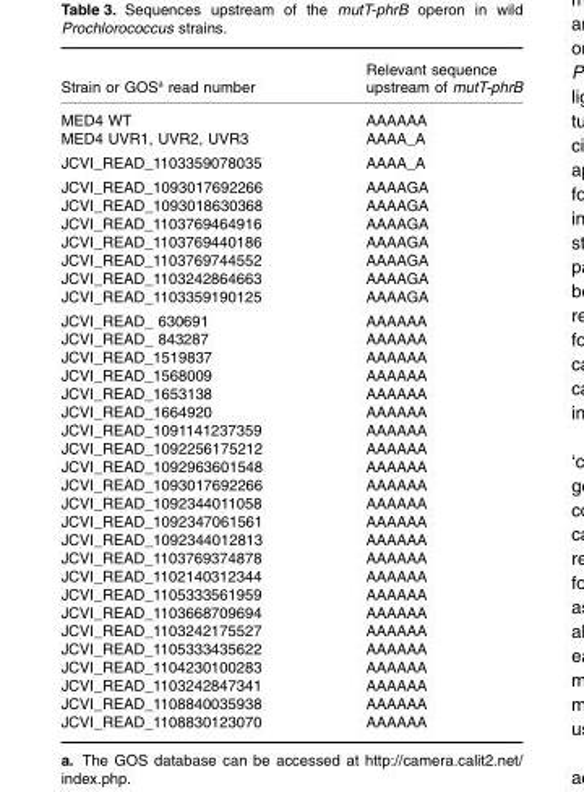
<table><thead><tr><td>Strain or GOSa read number</td><td>Relevant sequence upstream of mutT-phrB</td></tr></thead><tbody><tr><td>MED4 WT</td><td>AAAAAA</td></tr><tr><td>MED4 UVR1, UVR2, UVR3</td><td>AAAA_A</td></tr><tr><td>JCVI_READ_1103359078035</td><td>AAAA_A</td></tr><tr><td>JCVI_READ_1093017692266</td><td>AAAAGA</td></tr><tr><td>JCVI_READ_1093018630368</td><td>AAAAGA</td></tr><tr><td>JCVI_READ_1103769464916</td><td>AAAAGA</td></tr><tr><td>JCVI_READ_1103769440186</td><td>AAAAGA</td></tr><tr><td>JCVI_READ_1103769744552</td><td>AAAAGA</td></tr><tr><td>JCVI_READ_1103242864663</td><td>AAAAGA</td></tr><tr><td>JCVI_READ_1103359190125</td><td>AAAAGA</td></tr><tr><td>JCVI_READ_ 630691</td><td>AAAAAA</td></tr><tr><td>JCVI_READ_ 843287</td><td>AAAAAA</td></tr><tr><td>JCVI_READ_1519837</td><td>AAAAAA</td></tr><tr><td>JCVI_READ_1568009</td><td>AAAAAA</td></tr><tr><td>JCVI_READ_1653138</td><td>AAAAAA</td></tr><tr><td>JCVI_READ_1664920</td><td>AAAAAA</td></tr><tr><td>JCVI_READ_1091141237359</td><td>AAAAAA</td></tr><tr><td>JCVI_READ_1092256175212</td><td>AAAAAA</td></tr><tr><td>JCVI_READ_1092963601548</td><td>AAAAAA</td></tr><tr><td>JCVI_READ_1093017692266</td><td>AAAAAA</td></tr><tr><td>JCVI_READ_1092344011058</td><td>AAAAAA</td></tr><tr><td>JCVI_READ_1092347061561</td><td>AAAAAA</td></tr><tr><td>JCVI_READ_1092344012813</td><td>AAAAAA</td></tr><tr><td>JCVI_READ_1103769374878</td><td>AAAAAA</td></tr><tr><td>JCVI_READ_1102140312344</td><td>AAAAAA</td></tr><tr><td>JCVI_READ_1105333561959</td><td>AAAAAA</td></tr><tr><td>JCVI_READ_1103668709694</td><td>AAAAAA</td></tr><tr><td>JCVI_READ_1103242175527</td><td>AAAAAA</td></tr><tr><td>JCVI_READ_1105333435622</td><td>AAAAAA</td></tr><tr><td>JCVI_READ_1104230100283</td><td>AAAAAA</td></tr><tr><td>JCVI_READ_1103242847341</td><td>AAAAAA</td></tr><tr><td>JCVI_READ_1108840035938</td><td>AAAAAA</td></tr><tr><td>JCVI_READ_1108830123070</td><td>AAAAAA</td></tr></tbody></table>